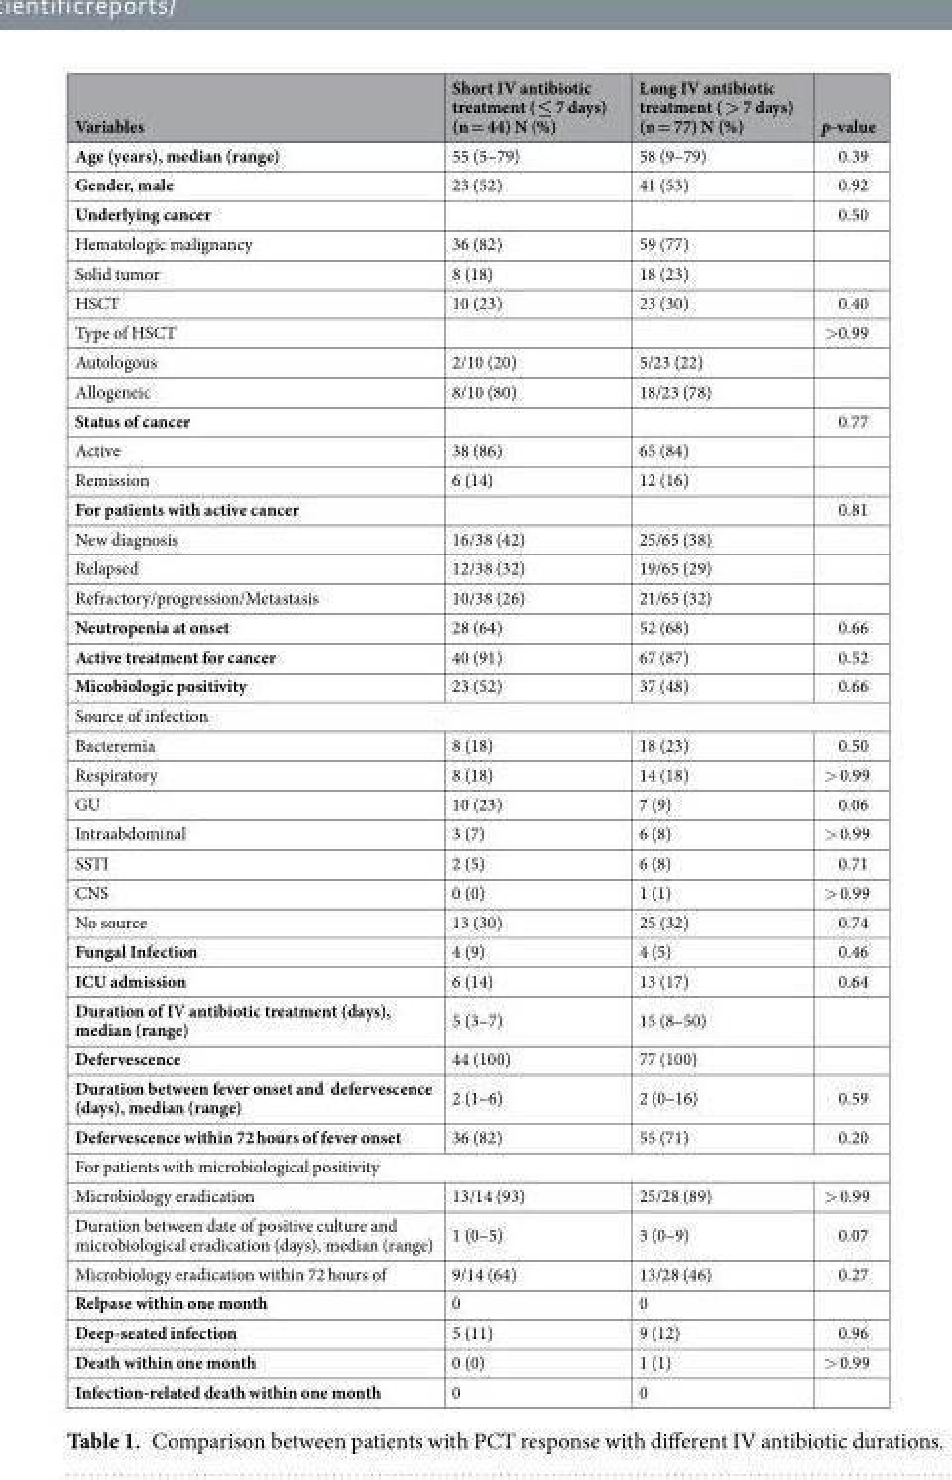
<table><thead><tr><td>Variables</td><td>Short IV antibiotic treatment ( ≤ 7 days) (n = 44) N (%)</td><td>Long IV antibiotic treatment ( &gt; 7 days) (n = 77) N (%)</td><td>p-value</td></tr></thead><tbody><tr><td>Age (years), median (range)</td><td>55 (5–79)</td><td>58 (9–79)</td><td>0.39</td></tr><tr><td>Gender, male</td><td>23 (52)</td><td>41 (53)</td><td>0.92</td></tr><tr><td>Underlying cancer</td><td></td><td></td><td>0.50</td></tr><tr><td>Hematologic malignancy</td><td>36 (82)</td><td>59 (77)</td><td></td></tr><tr><td>Solid tumor</td><td>8 (18)</td><td>18 (23)</td><td></td></tr><tr><td>HSCT</td><td>10 (23)</td><td>23 (30)</td><td>0.40</td></tr><tr><td>Type of HSCT</td><td></td><td></td><td>&gt;0.99</td></tr><tr><td>Autologous</td><td>2/10 (20)</td><td>5/23 (22)</td><td></td></tr><tr><td>Allogeneic</td><td>8/10 (80)</td><td>18/23 (78)</td><td></td></tr><tr><td>Status of cancer</td><td></td><td></td><td>0.77</td></tr><tr><td>Active</td><td>38 (86)</td><td>65 (84)</td><td></td></tr><tr><td>Remission</td><td>6 (14)</td><td>12 (16)</td><td></td></tr><tr><td>For patients with active cancer</td><td></td><td></td><td>0.81</td></tr><tr><td>New diagnosis</td><td>16/38 (42)</td><td>25/65 (38)</td><td></td></tr><tr><td>Relapsed</td><td>12/38 (32)</td><td>19/65 (29)</td><td></td></tr><tr><td>Refractory/progression/Metastasis</td><td>10/38 (26)</td><td>21/65 (32)</td><td></td></tr><tr><td>Neutropenia at onset</td><td>28 (64)</td><td>52 (68)</td><td>0.66</td></tr><tr><td>Active treatment for cancer</td><td>40 (91)</td><td>67 (87)</td><td>0.52</td></tr><tr><td>Micobiologic positivity</td><td>23 (52)</td><td>37 (48)</td><td>0.66</td></tr><tr><td colspan="4">Source of infection</td></tr><tr><td>Bacteremia</td><td>8 (18)</td><td>18 (23)</td><td>0.50</td></tr><tr><td>Respiratory</td><td>8 (18)</td><td>14 (18)</td><td>&gt; 0.99</td></tr><tr><td>GU</td><td>10 (23)</td><td>7 (9)</td><td>0.06</td></tr><tr><td>Intraabdominal</td><td>3 (7)</td><td>6 (8)</td><td>&gt; 0.99</td></tr><tr><td>SSTI</td><td>2 (5)</td><td>6 (8)</td><td>0.71</td></tr><tr><td>CNS</td><td>0 (0)</td><td>1 (1)</td><td>&gt; 0.99</td></tr><tr><td>No source</td><td>13 (30)</td><td>25 (32)</td><td>0.74</td></tr><tr><td>Fungal Infection</td><td>4 (9)</td><td>4 (5)</td><td>0.46</td></tr><tr><td>ICU admission</td><td>6 (14)</td><td>13 (17)</td><td>0.64</td></tr><tr><td>Duration of IV antibiotic treatment (days), median (range)</td><td>5 (3–7)</td><td>15 (8–50)</td><td></td></tr><tr><td>Defervescence</td><td>44 (100)</td><td>77 (100)</td><td></td></tr><tr><td>Duration between fever onset and defervescence (days), median (range)</td><td>2 (1–6)</td><td>2 (0–16)</td><td>0.59</td></tr><tr><td>Defervescence within 72 hours of fever onset</td><td>36 (82)</td><td>55 (71)</td><td>0.20</td></tr><tr><td colspan="4">For patients with microbiological positivity</td></tr><tr><td>Microbiology eradication</td><td>13/14 (93)</td><td>25/28 (89)</td><td>&gt; 0.99</td></tr><tr><td>Duration between date of positive culture and microbiological eradication (days), median (range)</td><td>1 (0–5)</td><td>3 (0–9)</td><td>0.07</td></tr><tr><td>Microbiology eradication within 72 hours of</td><td>9/14 (64)</td><td>13/28 (46)</td><td>0.27</td></tr><tr><td>Relpase within one month</td><td>0</td><td>0</td><td></td></tr><tr><td>Deep-seated infection</td><td>5 (11)</td><td>9 (12)</td><td>0.96</td></tr><tr><td>Death within one month</td><td>0 (0)</td><td>1 (1)</td><td>&gt; 0.99</td></tr><tr><td>Infection-related death within one month</td><td>0</td><td>0</td><td></td></tr></tbody></table>